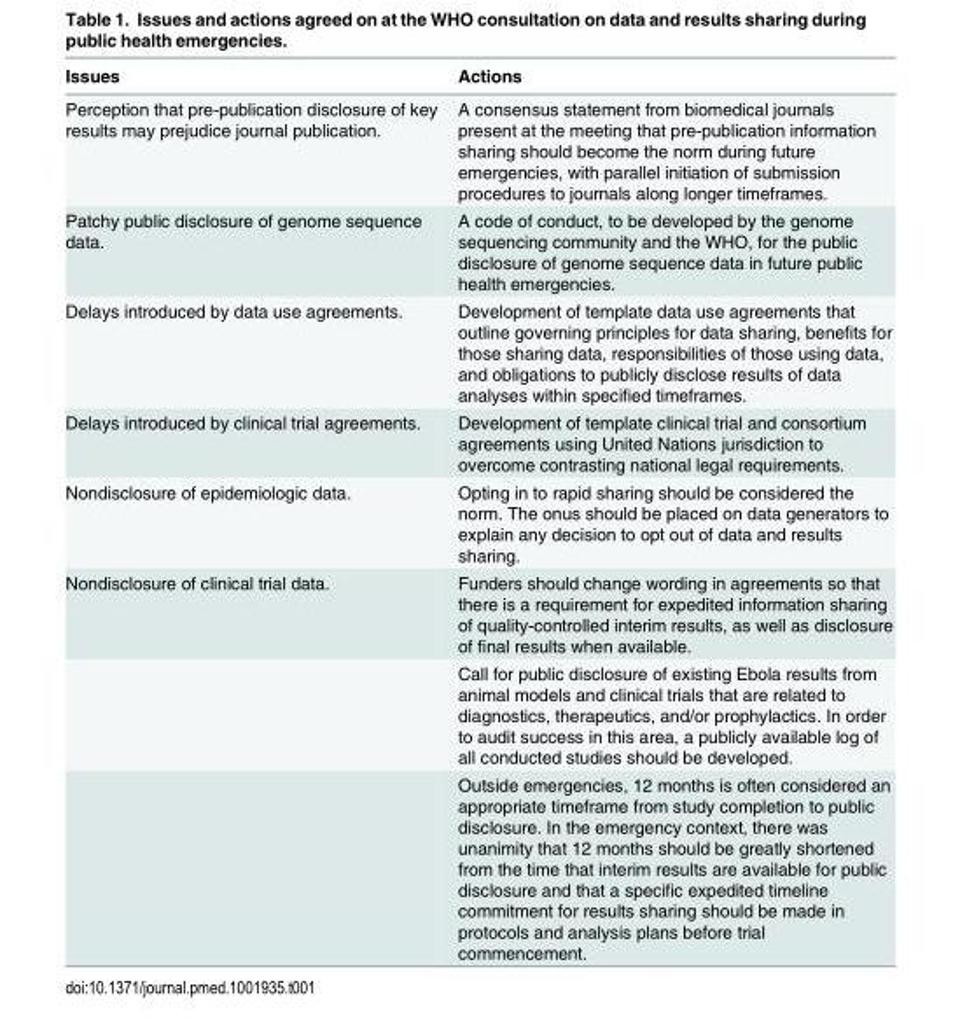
<table><thead><tr><td>Issues</td><td>Actions</td></tr></thead><tbody><tr><td>Perception that pre-publication disclosure of key results may prejudice journal publication.</td><td>A consensus statement from biomedical journals present at the meeting that pre-publication information sharing should become the norm during future emergencies, with parallel initiation of submission procedures to journals along longer timeframes.</td></tr><tr><td>Patchy public disclosure of genome sequence data.</td><td>A code of conduct, to be developed by the genome sequencing community and the WHO, for the public disclosure of genome sequence data in future public health emergencies.</td></tr><tr><td>Delays introduced by data use agreements.</td><td>Development of template data use agreements that outline governing principles for data sharing, benefits for those sharing data, responsibilities of those using data, and obligations to publicly disclose results of data analyses within specified timeframes.</td></tr><tr><td>Delays introduced by clinical trial agreements.</td><td>Development of template clinical trial and consortium agreements using United Nations jurisdiction to overcome contrasting national legal requirements.</td></tr><tr><td>Nondisclosure of epidemiologic data.</td><td>Opting in to rapid sharing should be considered the norm. The onus should be placed on data generators to explain any decision to opt out of data and results sharing.</td></tr><tr><td rowspan="3">Nondisclosure of clinical trial data.</td><td>Funders should change wording in agreements so that there is a requirement for expedited information sharing of quality-controlled interim results, as well as disclosure of final results when available.</td></tr><tr><td>Call for public disclosure of existing Ebola results from animal models and clinical trials that are related to diagnostics, therapeutics, and/or prophylactics. In order to audit success in this area, a publicly available log of all conducted studies should be developed.</td></tr><tr><td>Outside emergencies, 12 months is often considered an appropriate timeframe from study completion to public disclosure. In the emergency context, there was unanimity that 12 months should be greatly shortened from the time that interim results are available for public disclosure and that a specific expedited timeline commitment for results sharing should be made in protocols and analysis plans before trial commencement.</td></tr></tbody></table>